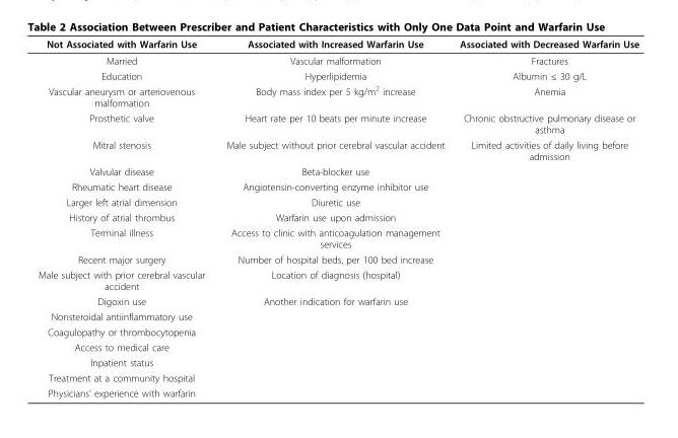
<table><thead><tr><td>Not Associated with Warfarin Use</td><td>Associated with Increased Warfarin Use</td><td>Associated with Decreased Warfarin Use</td></tr></thead><tbody><tr><td>Married</td><td>Vascular malformation</td><td>Fractures</td></tr><tr><td>Education</td><td>Hyperlipidemia</td><td>Albumin ≤ 30 g/L</td></tr><tr><td>Vascular aneurysm or arteriovenous malformation</td><td>Body mass index per 5 kg/m<sup>2</sup> increase</td><td>Anemia</td></tr><tr><td>Prosthetic valve</td><td>Heart rate per 10 beats per minute increase</td><td>Chronic obstructive pulmonary disease or asthma</td></tr><tr><td>Mitral stenosis</td><td>Male subject without prior cerebral vascular accident</td><td>Limited activities of daily living before admission</td></tr><tr><td>Valvular disease</td><td>Beta-blocker use</td><td></td></tr><tr><td>Rheumatic heart disease</td><td>Angiotensin-converting enzyme inhibitor use</td><td></td></tr><tr><td>Larger left atrial dimension</td><td>Diuretic use</td><td></td></tr><tr><td>History of atrial thrombus</td><td>Warfarin use upon admission</td><td></td></tr><tr><td>Terminal illness</td><td>Access to clinic with anticoagulation management services</td><td></td></tr><tr><td>Recent major surgery</td><td>Number of hospital beds, per 100 bed increase</td><td></td></tr><tr><td>Male subject with prior cerebral vascular accident</td><td>Location of diagnosis (hospital)</td><td></td></tr><tr><td>Digoxin use</td><td>Another indication for warfarin use</td><td></td></tr><tr><td colspan="3">Nonsteroidal antiinflammatory use</td></tr><tr><td colspan="3">Coagulopathy or thrombocytopenia</td></tr><tr><td colspan="3">Access to medical care</td></tr><tr><td colspan="3">Inpatient status</td></tr><tr><td colspan="3">Treatment at a community hospital</td></tr><tr><td>Physicians’ experience with warfarin</td><td></td><td></td></tr></tbody></table>